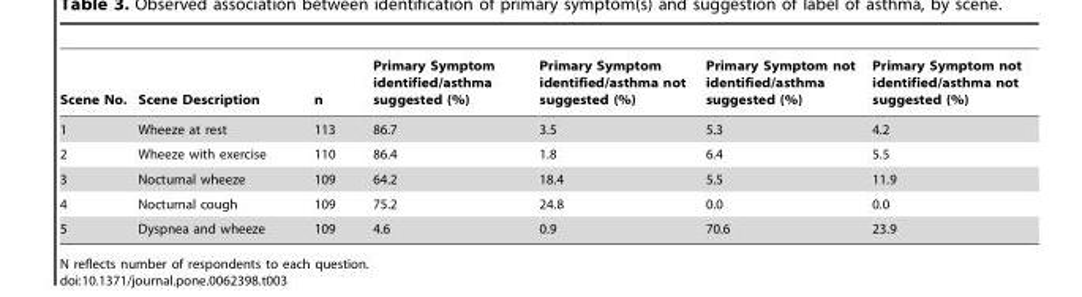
<table><thead><tr><td>Scene No.</td><td>Scene Description</td><td>n</td><td>Primary Symptom identified/asthma suggested (%)</td><td>Primary Symptom identified/asthma not suggested (%)</td><td>Primary Symptom not identified/asthma suggested (%)</td><td>Primary Symptom not identified/asthma not suggested (%)</td></tr></thead><tbody><tr><td>1</td><td>Wheeze at rest</td><td>113</td><td>86.7</td><td>3.5</td><td>5.3</td><td>4.2</td></tr><tr><td>2</td><td>Wheeze with exercise</td><td>110</td><td>86.4</td><td>1.8</td><td>6.4</td><td>5.5</td></tr><tr><td>3</td><td>Nocturnal wheeze</td><td>109</td><td>64.2</td><td>18.4</td><td>5.5</td><td>11.9</td></tr><tr><td>4</td><td>Nocturnal cough</td><td>109</td><td>75.2</td><td>24.8</td><td>0.0</td><td>0.0</td></tr><tr><td>5</td><td>Dyspnea and wheeze</td><td>109</td><td>4.6</td><td>0.9</td><td>70.6</td><td>23.9</td></tr></tbody></table>